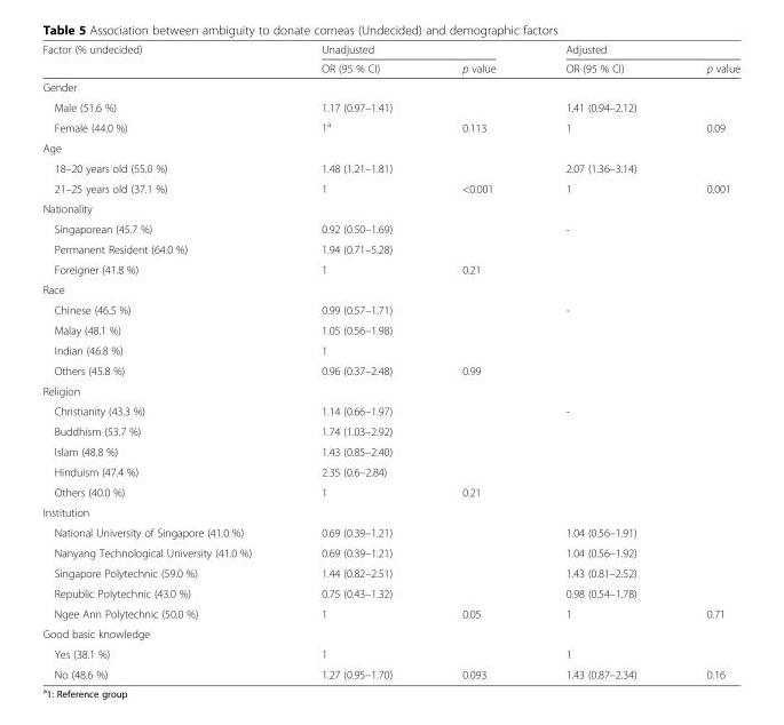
<table><thead><tr><td rowspan="2">Factor (% undecided)</td><td colspan="2">Unadjusted</td><td colspan="2">Adjusted</td></tr><tr><td>OR (95 % CI)</td><td>p value</td><td>OR (95 % CI)</td><td>p value</td></tr></thead><tbody><tr><td colspan="5">Gender</td></tr><tr><td>Male (51.6 %)</td><td>1.17 (0.97–1.41)</td><td></td><td>1.41 (0.94–2.12)</td><td></td></tr><tr><td>Female (44.0 %)</td><td>1<sup>a</sup></td><td>0.113</td><td>1</td><td>0.09</td></tr><tr><td colspan="5">Age</td></tr><tr><td>18–20 years old (55.0 %)</td><td>1.48 (1.21–1.81)</td><td></td><td>2.07 (1.36–3.14)</td><td></td></tr><tr><td>21–25 years old (37.1 %)</td><td>1</td><td>&lt;0.001</td><td>1</td><td>0.001</td></tr><tr><td colspan="5">Nationality</td></tr><tr><td>Singaporean (45.7 %)</td><td>0.92 (0.50–1.69)</td><td></td><td>-</td><td></td></tr><tr><td>Permanent Resident (64.0 %)</td><td>1.94 (0.71–5.28)</td><td></td><td></td><td></td></tr><tr><td>Foreigner (41.8 %)</td><td>1</td><td>0.21</td><td></td><td></td></tr><tr><td colspan="5">Race</td></tr><tr><td>Chinese (46.5 %)</td><td>0.99 (0.57–1.71)</td><td></td><td>-</td><td></td></tr><tr><td>Malay (48.1 %)</td><td>1.05 (0.56–1.98)</td><td></td><td></td><td></td></tr><tr><td>Indian (46.8 %)</td><td>1</td><td></td><td></td><td></td></tr><tr><td>Others (45.8 %)</td><td>0.96 (0.37–2.48)</td><td>0.99</td><td></td><td></td></tr><tr><td colspan="5">Religion</td></tr><tr><td>Christianity (43.3 %)</td><td>1.14 (0.66–1.97)</td><td></td><td>-</td><td></td></tr><tr><td>Buddhism (53.7 %)</td><td>1.74 (1.03–2.92)</td><td></td><td></td><td></td></tr><tr><td>Islam (48.8 %)</td><td>1.43 (0.85–2.40)</td><td></td><td></td><td></td></tr><tr><td>Hinduism (47.4 %)</td><td>2.35 (0.6–2.84)</td><td></td><td></td><td></td></tr><tr><td>Others (40.0 %)</td><td>1</td><td>0.21</td><td></td><td></td></tr><tr><td colspan="5">Institution</td></tr><tr><td>National University of Singapore (41.0 %)</td><td>0.69 (0.39–1.21)</td><td></td><td>1.04 (0.56–1.91)</td><td></td></tr><tr><td>Nanyang Technological University (41.0 %)</td><td>0.69 (0.39–1.21)</td><td></td><td>1.04 (0.56–1.92)</td><td></td></tr><tr><td>Singapore Polytechnic (59.0 %)</td><td>1.44 (0.82–2.51)</td><td></td><td>1.43 (0.81–2.52)</td><td></td></tr><tr><td>Republic Polytechnic (43.0 %)</td><td>0.75 (0.43–1.32)</td><td></td><td>0.98 (0.54–1.78)</td><td></td></tr><tr><td>Ngee Ann Polytechnic (50.0 %)</td><td>1</td><td>0.05</td><td>1</td><td>0.71</td></tr><tr><td colspan="5">Good basic knowledge</td></tr><tr><td>Yes (38.1 %)</td><td>1</td><td></td><td>1</td><td></td></tr><tr><td>No (48.6 %)</td><td>1.27 (0.95–1.70)</td><td>0.093</td><td>1.43 (0.87–2.34)</td><td>0.16</td></tr></tbody></table>